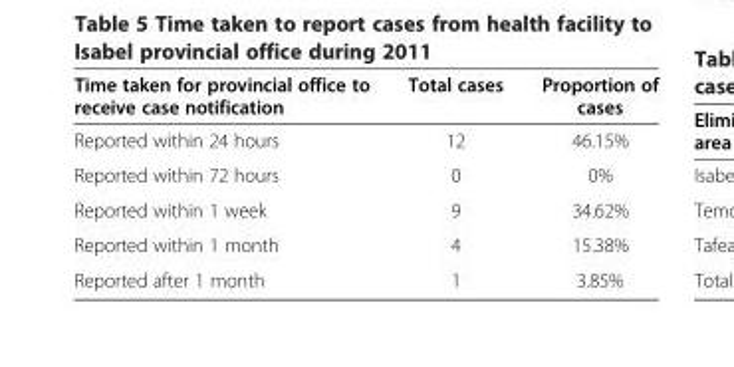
<table><thead><tr><td>Time taken for provincial office to receive case notification</td><td>Total cases</td><td>Proportion of cases</td></tr></thead><tbody><tr><td>Reported within 24 hours</td><td>12</td><td>46.15%</td></tr><tr><td>Reported within 72 hours</td><td>0</td><td>0%</td></tr><tr><td>Reported within 1 week</td><td>9</td><td>34.62%</td></tr><tr><td>Reported within 1 month</td><td>4</td><td>15.38%</td></tr><tr><td>Reported after 1 month</td><td>1</td><td>3.85%</td></tr></tbody></table>